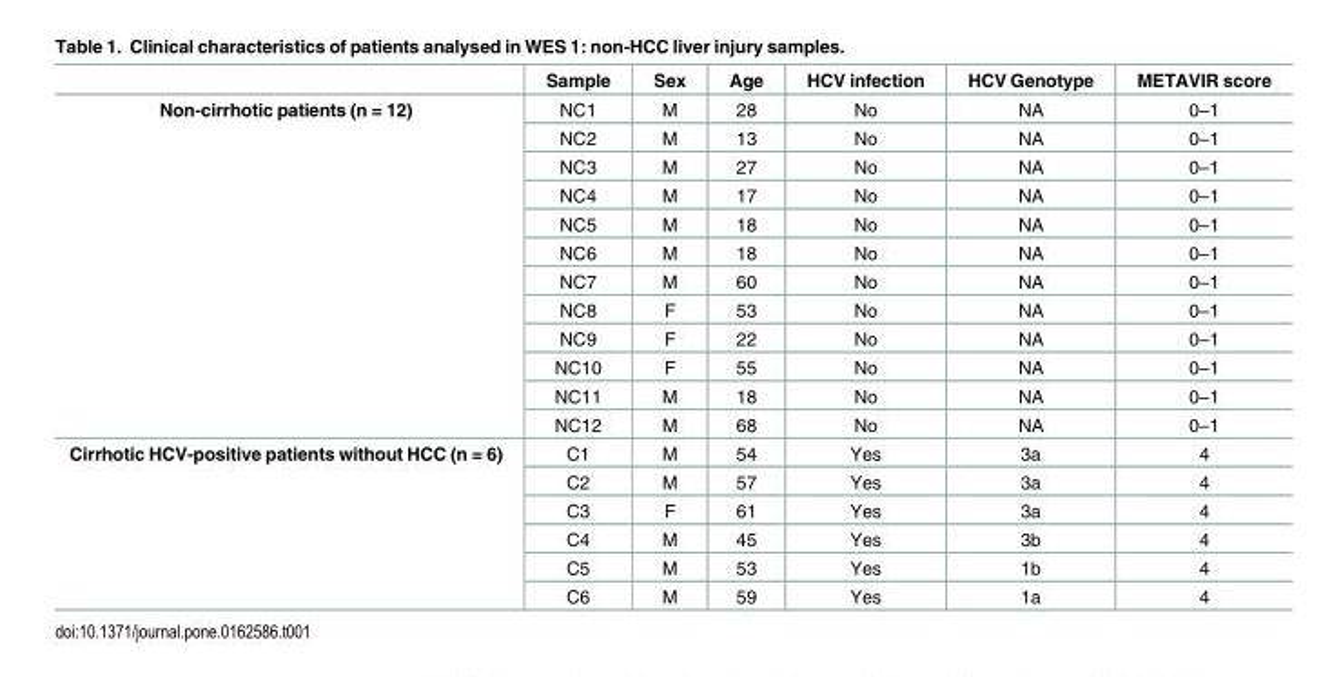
<table><thead><tr><td></td><td>Sample</td><td>Sex</td><td>Age</td><td>HCV infection</td><td>HCV Genotype</td><td>METAVIR score</td></tr></thead><tbody><tr><td rowspan="12">Non-cirrhotic patients (n = 12)</td><td>NC1</td><td>M</td><td>28</td><td>No</td><td>NA</td><td>0–1</td></tr><tr><td>NC2</td><td>M</td><td>13</td><td>No</td><td>NA</td><td>0–1</td></tr><tr><td>NC3</td><td>M</td><td>27</td><td>No</td><td>NA</td><td>0–1</td></tr><tr><td>NC4</td><td>M</td><td>17</td><td>No</td><td>NA</td><td>0–1</td></tr><tr><td>NC5</td><td>M</td><td>18</td><td>No</td><td>NA</td><td>0–1</td></tr><tr><td>NC6</td><td>M</td><td>18</td><td>No</td><td>NA</td><td>0–1</td></tr><tr><td>NC7</td><td>M</td><td>60</td><td>No</td><td>NA</td><td>0–1</td></tr><tr><td>NC8</td><td>F</td><td>53</td><td>No</td><td>NA</td><td>0–1</td></tr><tr><td>NC9</td><td>F</td><td>22</td><td>No</td><td>NA</td><td>0–1</td></tr><tr><td>NC10</td><td>F</td><td>55</td><td>No</td><td>NA</td><td>0–1</td></tr><tr><td>NC11</td><td>M</td><td>18</td><td>No</td><td>NA</td><td>0–1</td></tr><tr><td>NC12</td><td>M</td><td>68</td><td>No</td><td>NA</td><td>0–1</td></tr><tr><td rowspan="6">Cirrhotic HCV-positive patients without HCC (n = 6)</td><td>C1</td><td>M</td><td>54</td><td>Yes</td><td>3a</td><td>4</td></tr><tr><td>C2</td><td>M</td><td>57</td><td>Yes</td><td>3a</td><td>4</td></tr><tr><td>C3</td><td>F</td><td>61</td><td>Yes</td><td>3a</td><td>4</td></tr><tr><td>C4</td><td>M</td><td>45</td><td>Yes</td><td>3b</td><td>4</td></tr><tr><td>C5</td><td>M</td><td>53</td><td>Yes</td><td>1b</td><td>4</td></tr><tr><td>C6</td><td>M</td><td>59</td><td>Yes</td><td>1a</td><td>4</td></tr></tbody></table>